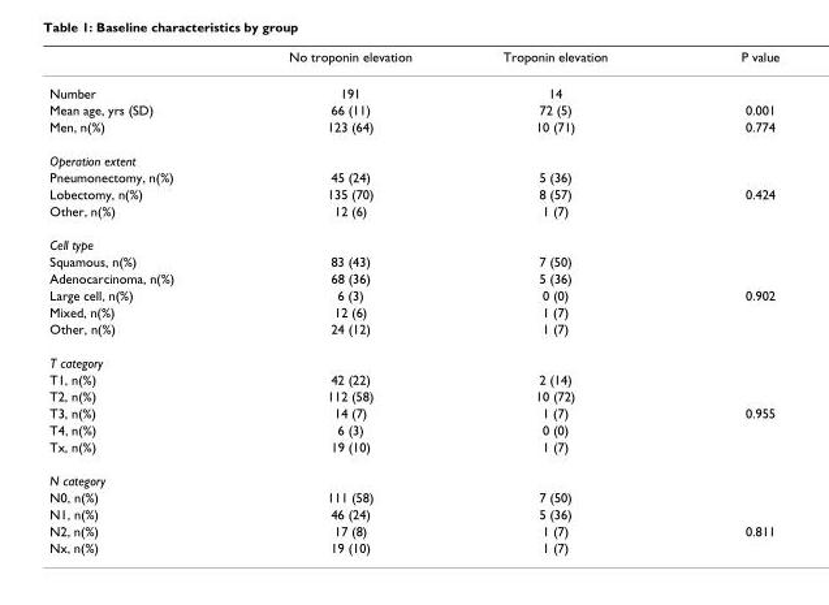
<table><thead><tr><td></td><td>No troponin elevation</td><td>Troponin elevation</td><td>P value</td></tr></thead><tbody><tr><td>Number</td><td>191</td><td>14</td><td></td></tr><tr><td>Mean age, yrs (SD)</td><td>66 (11)</td><td>72 (5)</td><td>0.001</td></tr><tr><td>Men, n(%)</td><td>123 (64)</td><td>10 (71)</td><td>0.774</td></tr><tr><td colspan="4">Operation extent</td></tr><tr><td>Pneumonectomy, n(%)</td><td>45 (24)</td><td>5 (36)</td><td></td></tr><tr><td>Lobectomy, n(%)</td><td>135 (70)</td><td>8 (57)</td><td>0.424</td></tr><tr><td>Other, n(%)</td><td>12 (6)</td><td>1 (7)</td><td></td></tr><tr><td colspan="4">Cell type</td></tr><tr><td>Squamous, n(%)</td><td>83 (43)</td><td>7 (50)</td><td></td></tr><tr><td>Adenocarcinoma, n(%)</td><td>68 (36)</td><td>5 (36)</td><td></td></tr><tr><td>Large cell, n(%)</td><td>6 (3)</td><td>0 (0)</td><td>0.902</td></tr><tr><td>Mixed, n(%)</td><td>12 (6)</td><td>1 (7)</td><td></td></tr><tr><td>Other, n(%)</td><td>24 (12)</td><td>1 (7)</td><td></td></tr><tr><td colspan="4">T category</td></tr><tr><td>T1, n(%)</td><td>42 (22)</td><td>2 (14)</td><td></td></tr><tr><td>T2, n(%)</td><td>112 (58)</td><td>10 (72)</td><td></td></tr><tr><td>T3, n(%)</td><td>14 (7)</td><td>1 (7)</td><td>0.955</td></tr><tr><td>T4, n(%)</td><td>6 (3)</td><td>0 (0)</td><td></td></tr><tr><td>Tx, n(%)</td><td>19 (10)</td><td>1 (7)</td><td></td></tr><tr><td colspan="4">N category</td></tr><tr><td>N0, n(%)</td><td>111 (58)</td><td>7 (50)</td><td></td></tr><tr><td>N1, n(%)</td><td>46 (24)</td><td>5 (36)</td><td></td></tr><tr><td>N2, n(%)</td><td>17 (8)</td><td>1 (7)</td><td>0.811</td></tr><tr><td>Nx, n(%)</td><td>19 (10)</td><td>1 (7)</td><td></td></tr></tbody></table>